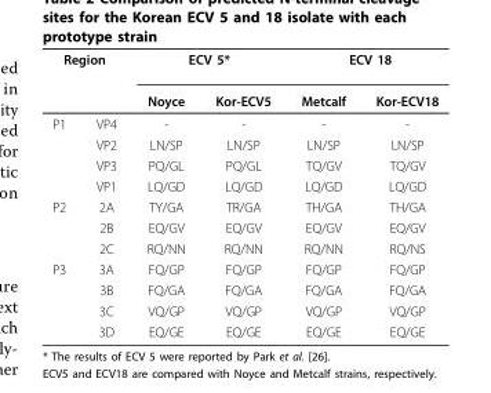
<table><thead><tr><td colspan="2">Region</td><td colspan="2">ECV 5*</td><td colspan="2">ECV 18</td></tr><tr><td></td><td></td><td>Noyce</td><td>Kor-ECV5</td><td>Metcalf</td><td>Kor-ECV18</td></tr></thead><tbody><tr><td rowspan="4">P1</td><td>VP4</td><td>-</td><td>-</td><td>-</td><td>-</td></tr><tr><td>VP2</td><td>LN/SP</td><td>LN/SP</td><td>LN/SP</td><td>LN/SP</td></tr><tr><td>VP3</td><td>PQ/GL</td><td>PQ/GL</td><td>TQ/GV</td><td>TQ/GV</td></tr><tr><td>VP1</td><td>LQ/GD</td><td>LQ/GD</td><td>LQ/GD</td><td>LQ/GD</td></tr><tr><td rowspan="3">P2</td><td>2A</td><td>TY/GA</td><td>TR/GA</td><td>TH/GA</td><td>TH/GA</td></tr><tr><td>2B</td><td>EQ/GV</td><td>EQ/GV</td><td>EQ/GV</td><td>EQ/GV</td></tr><tr><td>2C</td><td>RQ/NN</td><td>RQ/NN</td><td>RQ/NN</td><td>RQ/NS</td></tr><tr><td rowspan="4">P3</td><td>3A</td><td>FQ/GP</td><td>FQ/GP</td><td>FQ/GP</td><td>FQ/GP</td></tr><tr><td>3B</td><td>FQ/GA</td><td>FQ/GA</td><td>FQ/GA</td><td>FQ/GA</td></tr><tr><td>3C</td><td>VQ/GP</td><td>VQ/GP</td><td>VQ/GP</td><td>VQ/GP</td></tr><tr><td>3D</td><td>EQ/GE</td><td>EQ/GE</td><td>EQ/GE</td><td>EQ/GE</td></tr></tbody></table>